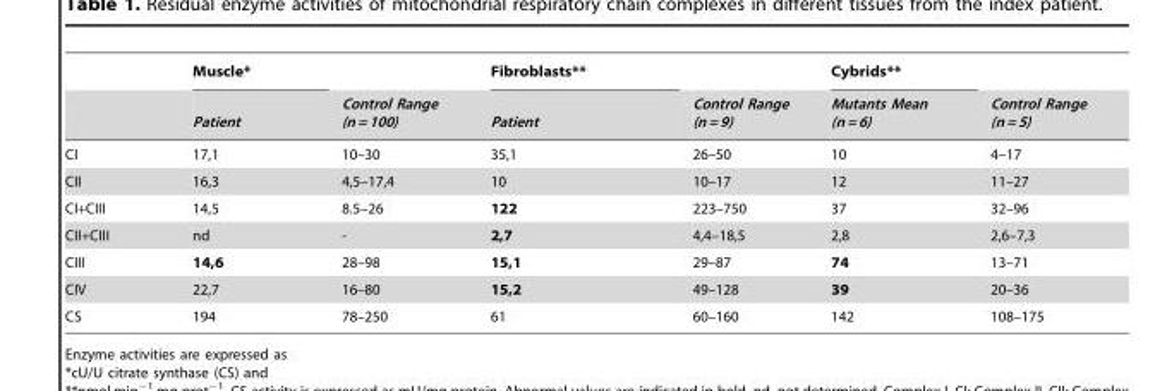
<table><thead><tr><td rowspan="2"></td><td rowspan="2">Muscle* Patient</td><td rowspan="2">Control Range (n = 100)</td><td rowspan="2">Fibroblasts** Patient</td><td rowspan="2">Control Range (n = 9)</td><td rowspan="2">Cybrids** Mutants Mean (n = 6)</td><td rowspan="2">Control Range (n = 5)</td></tr><tr></tr></thead><tbody><tr><td>CI</td><td>17,1</td><td>10–30</td><td>35,1</td><td>26–50</td><td>10</td><td>4–17</td></tr><tr><td>CII</td><td>16,3</td><td>4,5–17,4</td><td>10</td><td>10–17</td><td>12</td><td>11–27</td></tr><tr><td>CI+CIII</td><td>14,5</td><td>8.5–26</td><td>122</td><td>223–750</td><td>37</td><td>32–96</td></tr><tr><td>CII+CIII</td><td>nd</td><td>-</td><td>2,7</td><td>4,4–18,5</td><td>2,8</td><td>2,6–7,3</td></tr><tr><td>CIII</td><td>14,6</td><td>28–98</td><td>15,1</td><td>29–87</td><td>74</td><td>13–71</td></tr><tr><td>CIV</td><td>22,7</td><td>16–80</td><td>15,2</td><td>49–128</td><td>39</td><td>20–36</td></tr><tr><td>CS</td><td>194</td><td>78–250</td><td>61</td><td>60–160</td><td>142</td><td>108–175</td></tr></tbody></table>